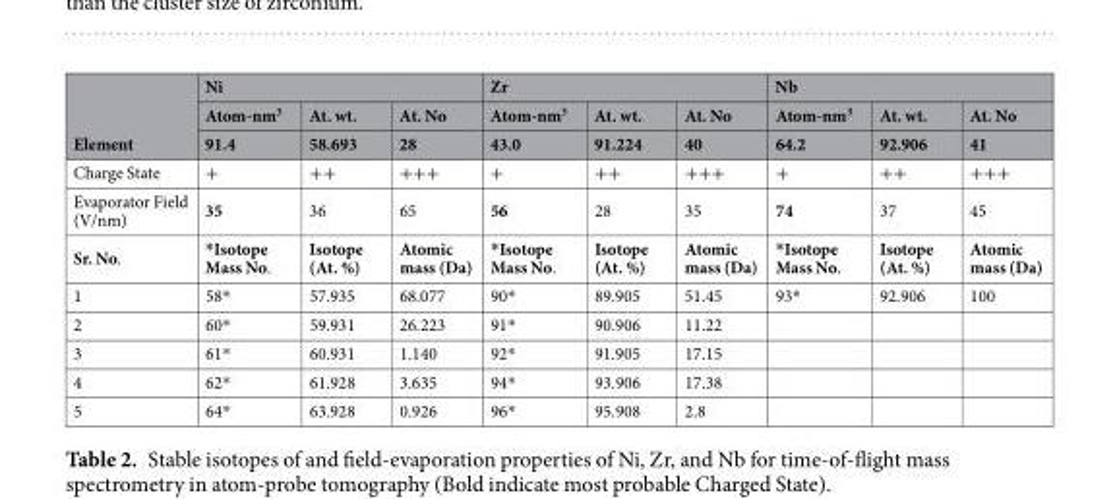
<table><thead><tr><td rowspan="3">Element</td><td colspan="3">Ni</td><td colspan="3">Zr</td><td colspan="3">Nb</td></tr><tr><td rowspan="2">Atom-nm<sup>3</sup> 91.4</td><td rowspan="2">At. wt. 58.693</td><td rowspan="2">At. No 28</td><td rowspan="2">Atom-nm<sup>3</sup> 43.0</td><td rowspan="2">At. wt. 91.224</td><td rowspan="2">At. No 40</td><td rowspan="2">Atom-nm<sup>3</sup> 64.2</td><td rowspan="2">At. wt. 92.906</td><td rowspan="2">At. No 41</td></tr><tr></tr></thead><tbody><tr><td>Charge State</td><td>+</td><td>++</td><td>+++</td><td>+</td><td>++</td><td>+++</td><td>+</td><td>++</td><td>+++</td></tr><tr><td>Evaporator Field (V/nm)</td><td>35</td><td>36</td><td>65</td><td>56</td><td>28</td><td>35</td><td>74</td><td>37</td><td>45</td></tr><tr><td>Sr. No.</td><td>*Isotope Mass No.</td><td>Isotope (At. %)</td><td>Atomic mass (Da)</td><td>*Isotope Mass No.</td><td>Isotope (At. %)</td><td>Atomic mass (Da)</td><td>*Isotope Mass No.</td><td>Isotope (At. %)</td><td>Atomic mass (Da)</td></tr><tr><td>1</td><td>58*</td><td>57.935</td><td>68.077</td><td>90*</td><td>89.905</td><td>51.45</td><td>93*</td><td>92.906</td><td>100</td></tr><tr><td>2</td><td>60*</td><td>59.931</td><td>26.223</td><td>91*</td><td>90.906</td><td>11.22</td><td></td><td></td><td></td></tr><tr><td>3</td><td>61*</td><td>60.931</td><td>1.140</td><td>92*</td><td>91.905</td><td>17.15</td><td></td><td></td><td></td></tr><tr><td>4</td><td>62*</td><td>61.928</td><td>3.635</td><td>94*</td><td>93.906</td><td>17.38</td><td></td><td></td><td></td></tr><tr><td>5</td><td>64*</td><td>63.928</td><td>0.926</td><td>96*</td><td>95.908</td><td>2.8</td><td></td><td></td><td></td></tr></tbody></table>